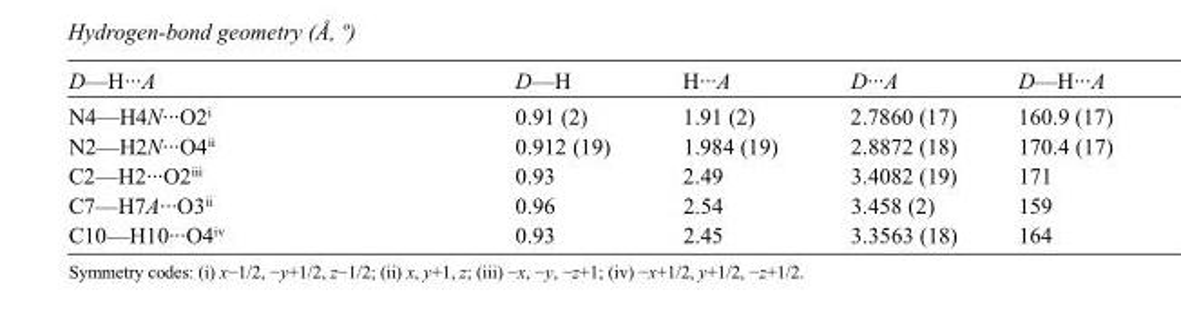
<table><tbody><tr><td>D—H···A</td><td>D—H</td><td>H···A</td><td>D···A</td><td>D—H···A</td></tr><tr><td>N4—H4N···O2<sup>i</sup></td><td>0.91 (2)</td><td>1.91 (2)</td><td>2.7860 (17)</td><td>160.9 (17)</td></tr><tr><td>N2—H2N···O4<sup>ii</sup></td><td>0.912 (19)</td><td>1.984 (19)</td><td>2.8872 (18)</td><td>170.4 (17)</td></tr><tr><td>C2—H2···O2<sup>iii</sup></td><td>0.93</td><td>2.49</td><td>3.4082 (19)</td><td>171</td></tr><tr><td>C7—H7A···O3<sup>ii</sup></td><td>0.96</td><td>2.54</td><td>3.458 (2)</td><td>159</td></tr><tr><td>C10—H10···O4<sup>iv</sup></td><td>0.93</td><td>2.45</td><td>3.3563 (18)</td><td>164</td></tr></tbody></table>